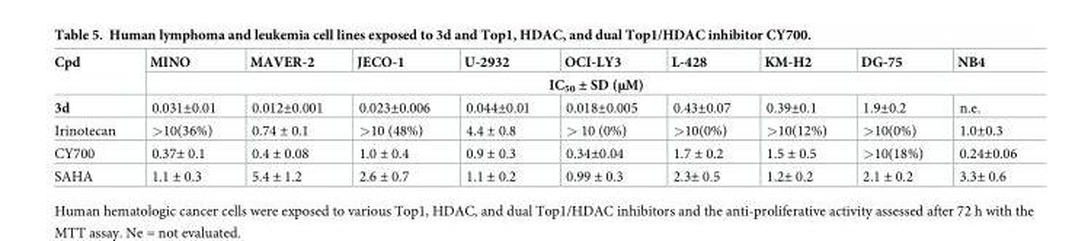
<table><thead><tr><td rowspan="2">Cpd</td><td>MINO</td><td>MAVER-2</td><td>JECO-1</td><td>U-2932</td><td>OCI-LY3</td><td>L-428</td><td>KM-H2</td><td>DG-75</td><td>NB4</td></tr><tr><td colspan="9">IC<sub>50</sub> ± SD (μM)</td></tr></thead><tbody><tr><td>3d</td><td>0.031±0.01</td><td>0.012±0.001</td><td>0.023±0.006</td><td>0.044±0.01</td><td>0.018±0.005</td><td>0.43±0.07</td><td>0.39±0.1</td><td>1.9±0.2</td><td>n.e.</td></tr><tr><td>Irinotecan</td><td>&gt;10(36%)</td><td>0.74 ± 0.1</td><td>&gt;10 (48%)</td><td>4.4 ± 0.8</td><td>&gt; 10 (0%)</td><td>&gt;10(0%)</td><td>&gt;10(12%)</td><td>&gt;10(0%)</td><td>1.0±0.3</td></tr><tr><td>CY700</td><td>0.37± 0.1</td><td>0.4 ± 0.08</td><td>1.0 ± 0.4</td><td>0.9 ± 0.3</td><td>0.34±0.04</td><td>1.7 ± 0.2</td><td>1.5 ± 0.5</td><td>&gt;10(18%)</td><td>0.24±0.06</td></tr><tr><td>SAHA</td><td>1.1 ± 0.3</td><td>5.4 ± 1.2</td><td>2.6 ± 0.7</td><td>1.1 ± 0.2</td><td>0.99 ± 0.3</td><td>2.3± 0.5</td><td>1.2± 0.2</td><td>2.1 ± 0.2</td><td>3.3± 0.6</td></tr></tbody></table>